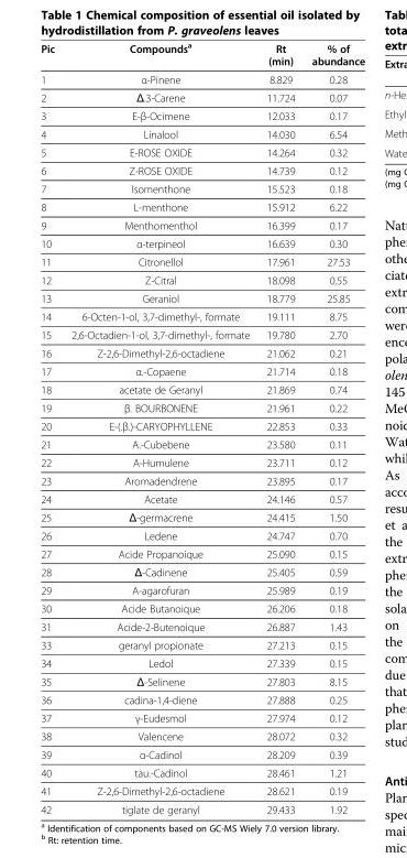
<table><thead><tr><td>Pic</td><td>Compounds<sup>a</sup></td><td>Rt (min)</td><td>% of abundance</td></tr></thead><tbody><tr><td>1</td><td>α-Pinene</td><td>8.829</td><td>0.28</td></tr><tr><td>2</td><td>Δ.3-Carene</td><td>11.724</td><td>0.07</td></tr><tr><td>3</td><td>E-β-Ocimene</td><td>12.033</td><td>0.17</td></tr><tr><td>4</td><td>Linalool</td><td>14.030</td><td>6.54</td></tr><tr><td>5</td><td>E-ROSE OXIDE</td><td>14.264</td><td>0.32</td></tr><tr><td>6</td><td>Z-ROSE OXIDE</td><td>14.739</td><td>0.12</td></tr><tr><td>7</td><td>Isomenthone</td><td>15.523</td><td>0.18</td></tr><tr><td>8</td><td>L-menthone</td><td>15.912</td><td>6.22</td></tr><tr><td>9</td><td>Menthomenthol</td><td>16.399</td><td>0.17</td></tr><tr><td>10</td><td>α-terpineol</td><td>16.639</td><td>0.30</td></tr><tr><td>11</td><td>Citronellol</td><td>17.961</td><td>27.53</td></tr><tr><td>12</td><td>Z-Citral</td><td>18.098</td><td>0.55</td></tr><tr><td>13</td><td>Geraniol</td><td>18.779</td><td>25.85</td></tr><tr><td>14</td><td>6-Octen-1-ol, 3,7-dimethyl-, formate</td><td>19.111</td><td>8.75</td></tr><tr><td>15</td><td>2,6-Octadien-1-ol, 3,7-dimethyl-, formate</td><td>19.780</td><td>2.70</td></tr><tr><td>16</td><td>Z-2,6-Dimethyl-2,6-octadiene</td><td>21.062</td><td>0.21</td></tr><tr><td>17</td><td>α.-Copaene</td><td>21.714</td><td>0.18</td></tr><tr><td>18</td><td>acetate de Geranyl</td><td>21.869</td><td>0.74</td></tr><tr><td>19</td><td>β. BOURBONENE</td><td>21.961</td><td>0.22</td></tr><tr><td>20</td><td>E-(.β.)-CARYOPHYLLENE</td><td>22.853</td><td>0.33</td></tr><tr><td>21</td><td>Α.-Cubebene</td><td>23.580</td><td>0.11</td></tr><tr><td>22</td><td>Α-Humulene</td><td>23.711</td><td>0.12</td></tr><tr><td>23</td><td>Aromadendrene</td><td>23.895</td><td>0.17</td></tr><tr><td>24</td><td>Acetate</td><td>24.146</td><td>0.57</td></tr><tr><td>25</td><td>Δ-germacrene</td><td>24.415</td><td>1.50</td></tr><tr><td>26</td><td>Ledene</td><td>24.747</td><td>0.70</td></tr><tr><td>27</td><td>Acide Propanoique</td><td>25.090</td><td>0.15</td></tr><tr><td>28</td><td>Δ-Cadinene</td><td>25.405</td><td>0.59</td></tr><tr><td>29</td><td>Α-agarofuran</td><td>25.989</td><td>0.19</td></tr><tr><td>30</td><td>Acide Butanoique</td><td>26.206</td><td>0.18</td></tr><tr><td>31</td><td>Acide-2-Butenoique</td><td>26.887</td><td>1.43</td></tr><tr><td>33</td><td>geranyl propionate</td><td>27.213</td><td>0.15</td></tr><tr><td>34</td><td>Ledol</td><td>27.339</td><td>0.15</td></tr><tr><td>35</td><td>Δ-Selinene</td><td>27.803</td><td>8.15</td></tr><tr><td>36</td><td>cadina-1,4-diene</td><td>27.888</td><td>0.25</td></tr><tr><td>37</td><td>γ-Eudesmol</td><td>27.974</td><td>0.12</td></tr><tr><td>38</td><td>Valencene</td><td>28.072</td><td>0.32</td></tr><tr><td>39</td><td>α-Cadinol</td><td>28.209</td><td>0.39</td></tr><tr><td>40</td><td>tau.-Cadinol</td><td>28.461</td><td>1.21</td></tr><tr><td>41</td><td>Z-2,6-Dimethyl-2,6-octadiene</td><td>28.621</td><td>0.19</td></tr><tr><td>42</td><td>tiglate de geranyl</td><td>29.433</td><td>1.92</td></tr></tbody></table>